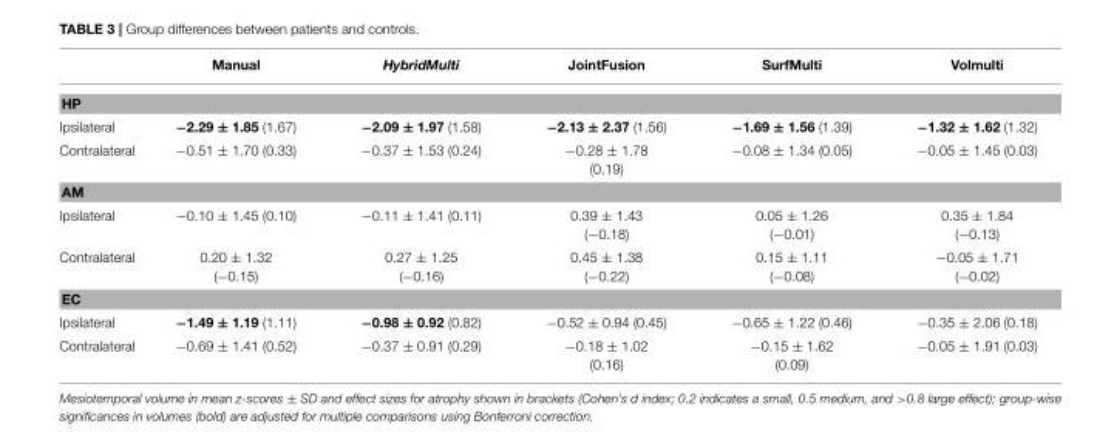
<table><thead><tr><td></td><td>Manual</td><td>HybridMulti</td><td>JointFusion</td><td>SurfMulti</td><td>Volmulti</td></tr></thead><tbody><tr><td colspan="6">HP</td></tr><tr><td>Ipsilateral</td><td>−2.29 ± 1.85 (1.67)</td><td>−2.09 ± 1.97 (1.58)</td><td>−2.13 ± 2.37 (1.56)</td><td>−1.69 ± 1.56 (1.39)</td><td>−1.32 ± 1.62 (1.32)</td></tr><tr><td>Contralateral</td><td>−0.51 ± 1.70 (0.33)</td><td>−0.37 ± 1.53 (0.24)</td><td>−0.28 ± 1.78 (0.19)</td><td>−0.08 ± 1.34 (0.05)</td><td>−0.05 ± 1.45 (0.03)</td></tr><tr><td colspan="6">AM</td></tr><tr><td>Ipsilateral</td><td>−0.10 ± 1.45 (0.10)</td><td>−0.11 ± 1.41 (0.11)</td><td>0.39 ± 1.43 (−0.18)</td><td>0.05 ± 1.26 (−0.01)</td><td>0.35 ± 1.84 (−0.13)</td></tr><tr><td>Contralateral</td><td>0.20 ± 1.32 (−0.15)</td><td>0.27 ± 1.25 (−0.16)</td><td>0.45 ± 1.38 (−0.22)</td><td>0.15 ± 1.11 (−0.08)</td><td>−0.05 ± 1.71 (−0.02)</td></tr><tr><td colspan="6">EC</td></tr><tr><td>Ipsilateral</td><td>−1.49 ± 1.19 (1.11)</td><td>−0.98 ± 0.92 (0.82)</td><td>−0.52 ± 0.94 (0.45)</td><td>−0.65 ± 1.22 (0.46)</td><td>−0.35 ± 2.06 (0.18)</td></tr><tr><td>Contralateral</td><td>−0.69 ± 1.41 (0.52)</td><td>−0.37 ± 0.91 (0.29)</td><td>−0.18 ± 1.02 (0.16)</td><td>−0.15 ± 1.62 (0.09)</td><td>−0.05 ± 1.91 (0.03)</td></tr></tbody></table>